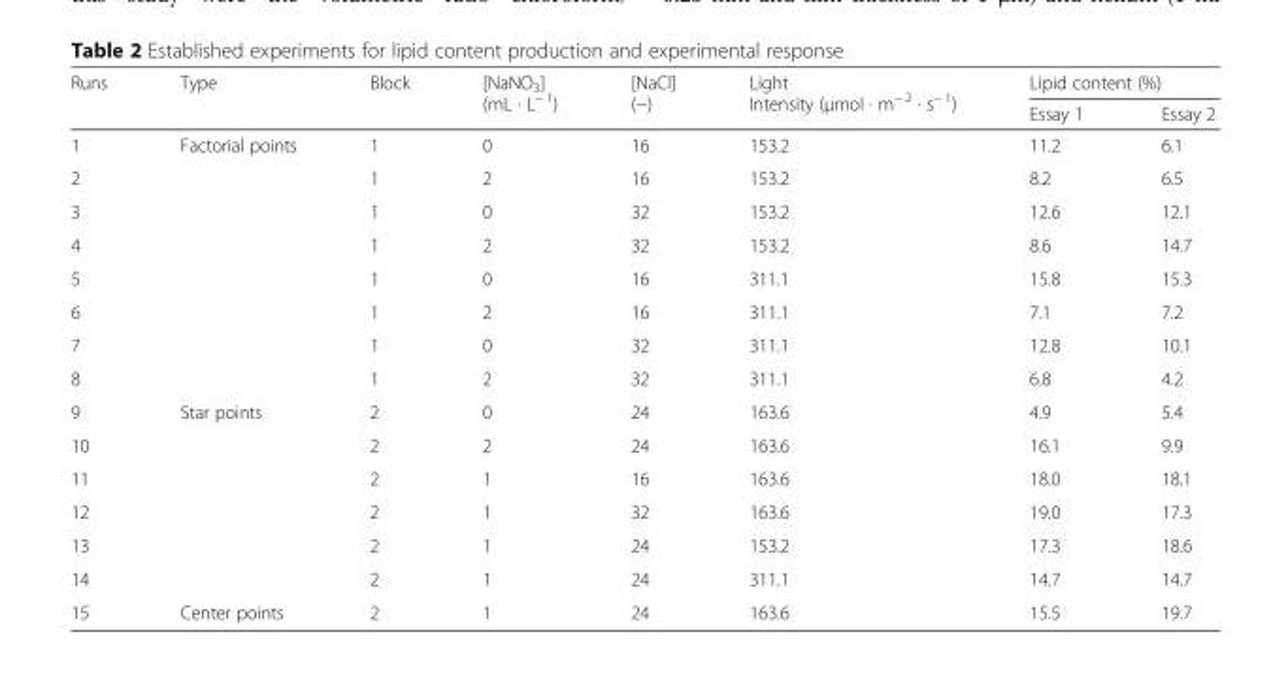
<table><thead><tr><td rowspan="2">Runs</td><td rowspan="2">Type</td><td rowspan="2">Block</td><td rowspan="2">[NaNO<sub>3</sub>] (mL · L<sup>− 1</sup>)</td><td rowspan="2">[NaCl] (−)</td><td rowspan="2">Light Intensity (μmol · m<sup>− 2</sup> · s<sup>− 1</sup>)</td><td colspan="2">Lipid content (%)</td></tr><tr><td>Essay 1</td><td>Essay 2</td></tr></thead><tbody><tr><td>1</td><td rowspan="8">Factorial points</td><td>1</td><td>0</td><td>16</td><td>153.2</td><td>11.2</td><td>6.1</td></tr><tr><td>2</td><td>1</td><td>2</td><td>16</td><td>153.2</td><td>8.2</td><td>6.5</td></tr><tr><td>3</td><td>1</td><td>0</td><td>32</td><td>153.2</td><td>12.6</td><td>12.1</td></tr><tr><td>4</td><td>1</td><td>2</td><td>32</td><td>153.2</td><td>8.6</td><td>14.7</td></tr><tr><td>5</td><td>1</td><td>0</td><td>16</td><td>311.1</td><td>15.8</td><td>15.3</td></tr><tr><td>6</td><td>1</td><td>2</td><td>16</td><td>311.1</td><td>7.1</td><td>7.2</td></tr><tr><td>7</td><td>1</td><td>0</td><td>32</td><td>311.1</td><td>12.8</td><td>10.1</td></tr><tr><td>8</td><td>1</td><td>2</td><td>32</td><td>311.1</td><td>6.8</td><td>4.2</td></tr><tr><td>9</td><td rowspan="6">Star points</td><td>2</td><td>0</td><td>24</td><td>163.6</td><td>4.9</td><td>5.4</td></tr><tr><td>10</td><td>2</td><td>2</td><td>24</td><td>163.6</td><td>16.1</td><td>9.9</td></tr><tr><td>11</td><td>2</td><td>1</td><td>16</td><td>163.6</td><td>18.0</td><td>18.1</td></tr><tr><td>12</td><td>2</td><td>1</td><td>32</td><td>163.6</td><td>19.0</td><td>17.3</td></tr><tr><td>13</td><td>2</td><td>1</td><td>24</td><td>153.2</td><td>17.3</td><td>18.6</td></tr><tr><td>14</td><td>2</td><td>1</td><td>24</td><td>311.1</td><td>14.7</td><td>14.7</td></tr><tr><td>15</td><td>Center points</td><td>2</td><td>1</td><td>24</td><td>163.6</td><td>15.5</td><td>19.7</td></tr></tbody></table>